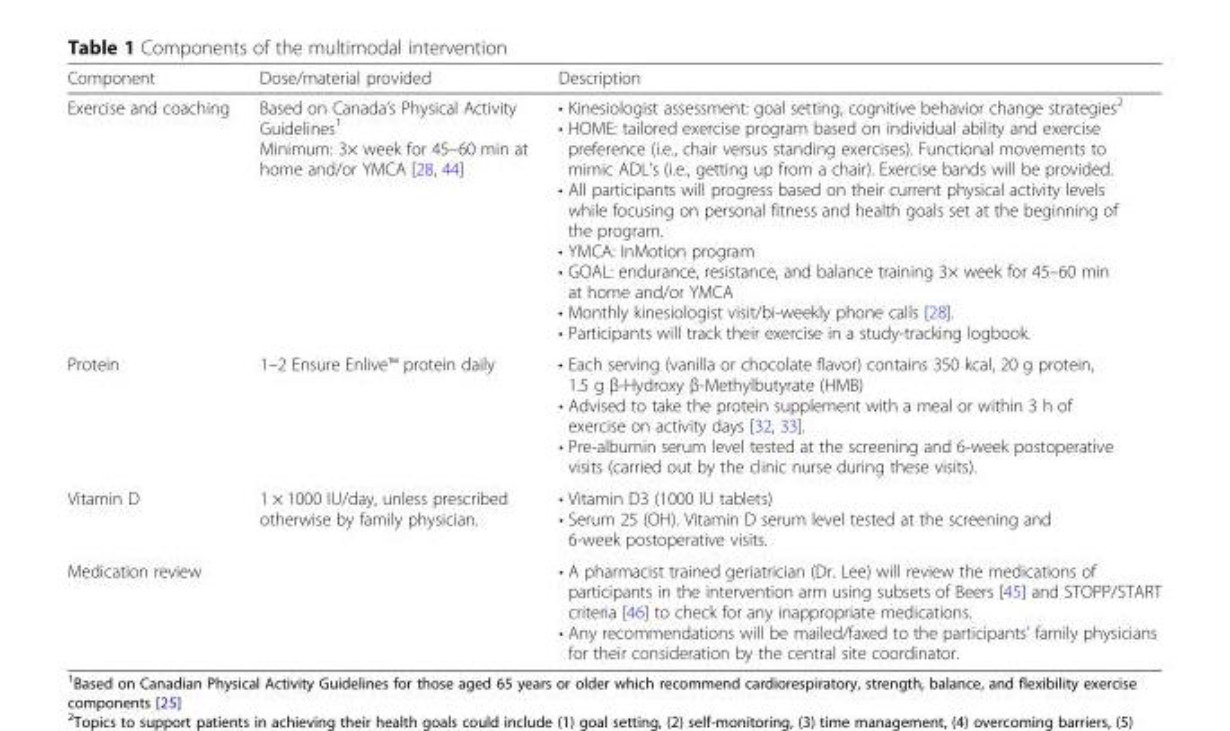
<table><thead><tr><td>Component</td><td>Dose/material provided</td><td>Description</td></tr></thead><tbody><tr><td>Exercise and coaching</td><td>Based on Canada’s Physical Activity Guidelines<sup>1</sup> Minimum: 3× week for 45–60 min at home and/or YMCA [28, 44]</td><td>• Kinesiologist assessment: goal setting, cognitive behavior change strategies<sup>2</sup> • HOME: tailored exercise program based on individual ability and exercise preference (i.e., chair versus standing exercises). Functional movements to mimic ADL’s (i.e., getting up from a chair). Exercise bands will be provided. • All participants will progress based on their current physical activity levels while focusing on personal fitness and health goals set at the beginning of the program. • YMCA: InMotion program • GOAL: endurance, resistance, and balance training 3× week for 45–60 min at home and/or YMCA • Monthly kinesiologist visit/bi-weekly phone calls [28]. • Participants will track their exercise in a study-tracking logbook.</td></tr><tr><td>Protein</td><td>1–2 Ensure Enlive™ protein daily</td><td>• Each serving (vanilla or chocolate flavor) contains 350 kcal, 20 g protein, 1.5 g β-Hydroxy β-Methylbutyrate (HMB) • Advised to take the protein supplement with a meal or within 3 h of exercise on activity days [32, 33]. • Pre-albumin serum level tested at the screening and 6-week postoperative visits (carried out by the clinic nurse during these visits).</td></tr><tr><td>Vitamin D</td><td>1 × 1000 IU/day, unless prescribed otherwise by family physician.</td><td>• Vitamin D3 (1000 IU tablets) • Serum 25 (OH). Vitamin D serum level tested at the screening and 6-week postoperative visits.</td></tr><tr><td>Medication review</td><td></td><td>• A pharmacist trained geriatrician (Dr. Lee) will review the medications of participants in the intervention arm using subsets of Beers [45] and STOPP/START criteria [46] to check for any inappropriate medications. • Any recommendations will be mailed/faxed to the participants’ family physicians for their consideration by the central site coordinator.</td></tr></tbody></table>